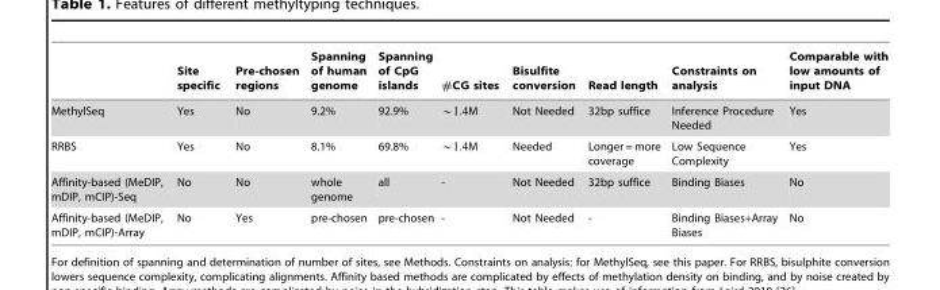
<table><thead><tr><td></td><td>Site specific</td><td>Pre-chosen regions</td><td>Spanning of human genome</td><td>Spanning of CpG islands</td><td>#CG sites</td><td>Bisulfite conversion</td><td>Read length</td><td>Constraints on analysis</td><td>Comparable with low amounts of input DNA</td></tr></thead><tbody><tr><td>MethylSeq</td><td>Yes</td><td>No</td><td>9.2%</td><td>92.9%</td><td>*1:4M</td><td>Not Needed</td><td>32bp suffice</td><td>Inference Procedure Needed</td><td>Yes</td></tr><tr><td>RRBS</td><td>Yes</td><td>No</td><td>8.1%</td><td>69.8%</td><td>*1:4M</td><td>Needed</td><td>Longer = more coverage</td><td>Low Sequence Complexity</td><td>Yes</td></tr><tr><td>Affinity-based (MeDIP, mDIP, mCIP)-Seq</td><td>No</td><td>No</td><td>whole genome</td><td>all</td><td>-</td><td>Not Needed</td><td>32bp suffice</td><td>Binding Biases</td><td>No</td></tr><tr><td>Affinity-based (MeDIP, mDIP, mCIP)-Array</td><td>No</td><td>Yes</td><td>pre-chosen</td><td>pre-chosen</td><td>-</td><td>Not Needed</td><td>-</td><td>Binding Biases+Array Biases</td><td>No</td></tr></tbody></table>